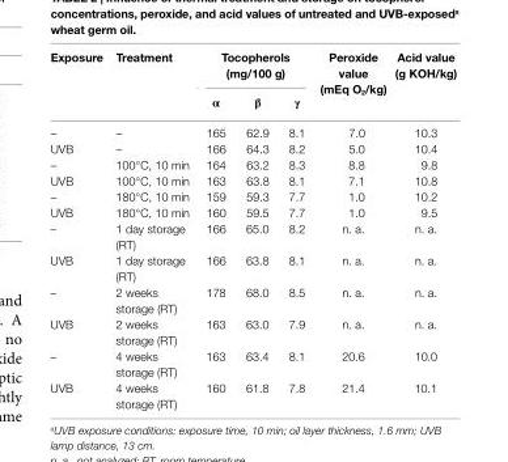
<table><thead><tr><td rowspan="2">exposure</td><td rowspan="2">Treatment</td><td colspan="3">Tocopherols (mg/100 g)</td><td rowspan="2">Peroxide value (meq O<sub>2</sub>/kg)</td><td rowspan="2">acid value (g KOh/kg)</td></tr><tr><td>α</td><td>β</td><td>γ</td></tr></thead><tbody><tr><td>–</td><td>–</td><td>165</td><td>62.9</td><td>8.1</td><td>7.0</td><td>10.3</td></tr><tr><td>UVB</td><td>–</td><td>166</td><td>64.3</td><td>8.2</td><td>5.0</td><td>10.4</td></tr><tr><td>–</td><td>100°C, 10 min</td><td>164</td><td>63.2</td><td>8.3</td><td>8.8</td><td>9.8</td></tr><tr><td>UVB</td><td>100°C, 10 min</td><td>163</td><td>63.8</td><td>8.1</td><td>7.1</td><td>10.8</td></tr><tr><td>–</td><td>180°C, 10 min</td><td>159</td><td>59.3</td><td>7.7</td><td>1.0</td><td>10.2</td></tr><tr><td>UVB</td><td>180°C, 10 min</td><td>160</td><td>59.5</td><td>7.7</td><td>1.0</td><td>9.5</td></tr><tr><td>–</td><td>1 day storage (RT)</td><td>166</td><td>65.0</td><td>8.2</td><td>n. a.</td><td>n. a.</td></tr><tr><td>UVB</td><td>1 day storage (RT)</td><td>166</td><td>63.8</td><td>8.1</td><td>n. a.</td><td>n. a.</td></tr><tr><td>–</td><td>2 weeks storage (RT)</td><td>178</td><td>68.0</td><td>8.5</td><td>n. a.</td><td>n. a.</td></tr><tr><td>UVB</td><td>2 weeks storage (RT)</td><td>163</td><td>63.0</td><td>7.9</td><td>n. a.</td><td>n. a.</td></tr><tr><td>–</td><td>4 weeks storage (RT)</td><td>163</td><td>63.4</td><td>8.1</td><td>20.6</td><td>10.0</td></tr><tr><td>UVB</td><td>4 weeks storage (RT)</td><td>160</td><td>61.8</td><td>7.8</td><td>21.4</td><td>10.1</td></tr></tbody></table>